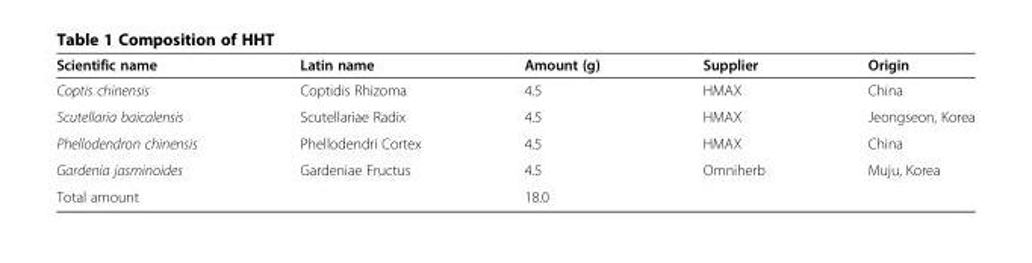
<table><thead><tr><td>Scientific name</td><td>Latin name</td><td>Amount (g)</td><td>Supplier</td><td>Origin</td></tr></thead><tbody><tr><td>Coptis chinensis</td><td>Coptidis Rhizoma</td><td>4.5</td><td>HMAX</td><td>China</td></tr><tr><td>Scutellaria baicalensis</td><td>Scutellariae Radix</td><td>4.5</td><td>HMAX</td><td>Jeongseon, Korea</td></tr><tr><td>Phellodendron chinensis</td><td>Phellodendri Cortex</td><td>4.5</td><td>HMAX</td><td>China</td></tr><tr><td>Gardenia jasminoides</td><td>Gardeniae Fructus</td><td>4.5</td><td>Omniherb</td><td>Muju, Korea</td></tr><tr><td>Total amount</td><td></td><td>18.0</td><td></td><td></td></tr></tbody></table>